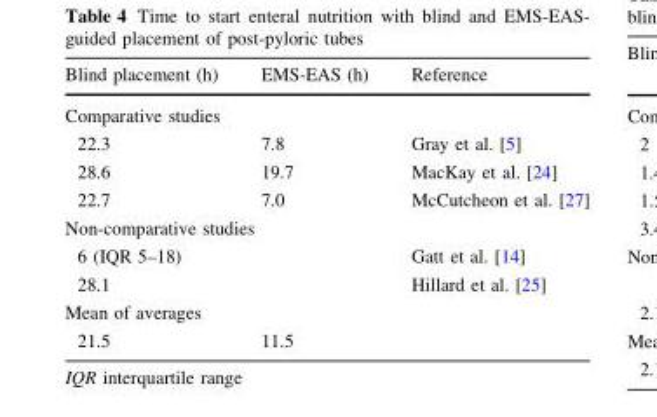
<table><thead><tr><td>Blind placement (h)</td><td>EMS-EAS (h)</td><td>Reference</td></tr></thead><tbody><tr><td colspan="3">Comparative studies</td></tr><tr><td>22.3</td><td>7.8</td><td>Gray et al. [5]</td></tr><tr><td>28.6</td><td>19.7</td><td>MacKay et al. [24]</td></tr><tr><td>22.7</td><td>7.0</td><td>McCutcheon et al. [27]</td></tr><tr><td colspan="3">Non-comparative studies</td></tr><tr><td>6 (IQR 5–18)</td><td></td><td>Gatt et al. [14]</td></tr><tr><td>28.1</td><td></td><td>Hillard et al. [25]</td></tr><tr><td colspan="3">Mean of averages</td></tr><tr><td>21.5</td><td>11.5</td><td></td></tr></tbody></table>